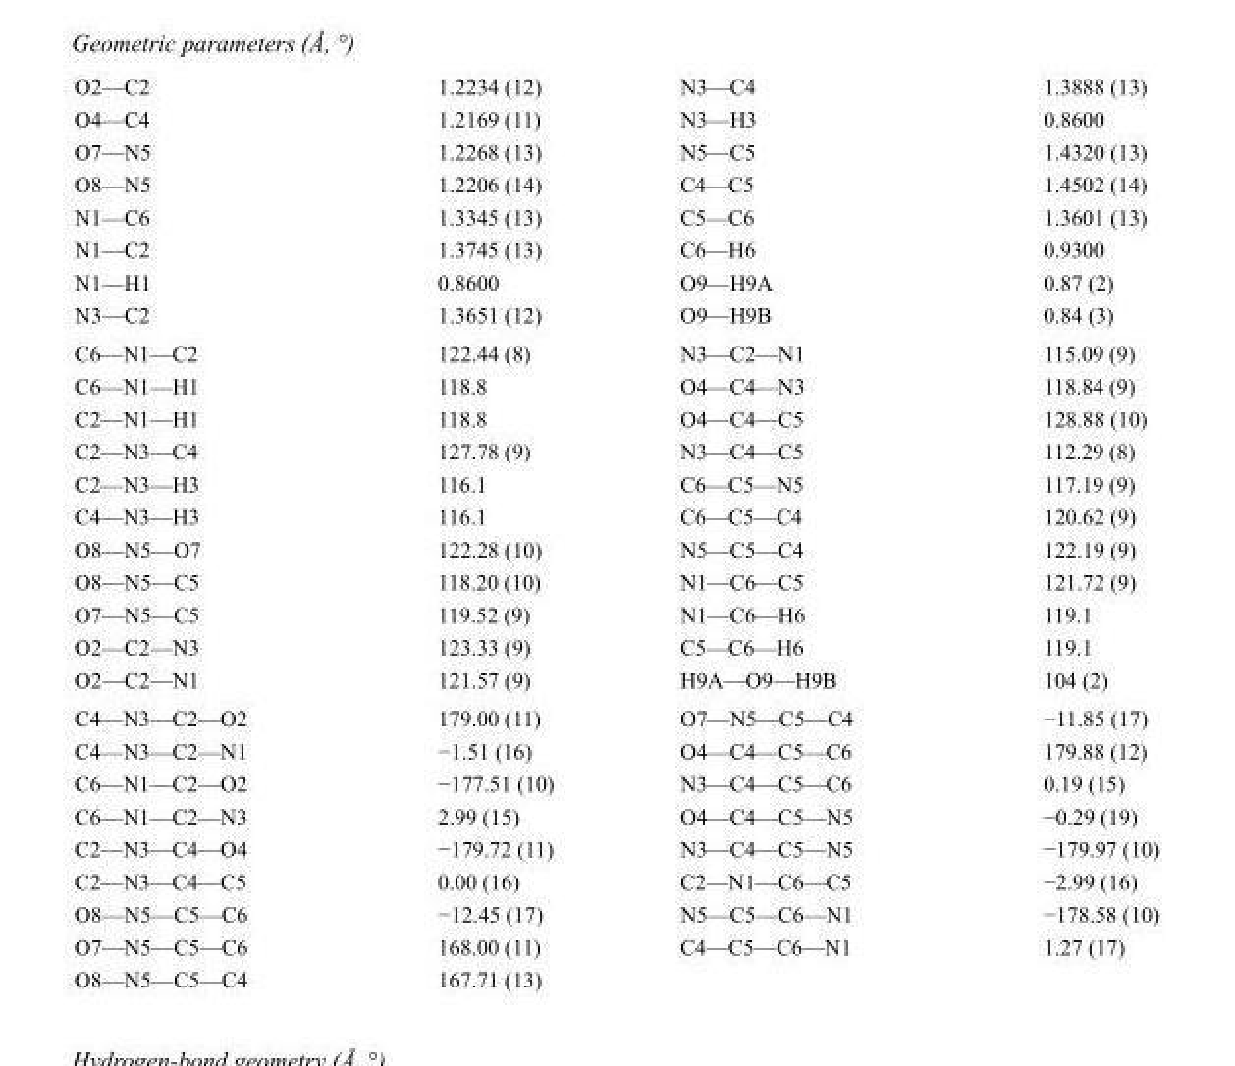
<table><tbody><tr><td>O2—C2</td><td>1.2234 (12)</td><td>N3—C4</td><td>1.3888 (13)</td></tr><tr><td>O4—C4</td><td>1.2169 (11)</td><td>N3—H3</td><td>0.8600</td></tr><tr><td>O7—N5</td><td>1.2268 (13)</td><td>N5—C5</td><td>1.4320 (13)</td></tr><tr><td>O8—N5</td><td>1.2206 (14)</td><td>C4—C5</td><td>1.4502 (14)</td></tr><tr><td>N1—C6</td><td>1.3345 (13)</td><td>C5—C6</td><td>1.3601 (13)</td></tr><tr><td>N1—C2</td><td>1.3745 (13)</td><td>C6—H6</td><td>0.9300</td></tr><tr><td>N1—H1</td><td>0.8600</td><td>O9—H9A</td><td>0.87 (2)</td></tr><tr><td>N3—C2</td><td>1.3651 (12)</td><td>O9—H9B</td><td>0.84 (3)</td></tr><tr><td>C6—N1—C2</td><td>122.44 (8)</td><td>N3—C2—N1</td><td>115.09 (9)</td></tr><tr><td>C6—N1—H1</td><td>118.8</td><td>O4—C4—N3</td><td>118.84 (9)</td></tr><tr><td>C2—N1—H1</td><td>118.8</td><td>O4—C4—C5</td><td>128.88 (10)</td></tr><tr><td>C2—N3—C4</td><td>127.78 (9)</td><td>N3—C4—C5</td><td>112.29 (8)</td></tr><tr><td>C2—N3—H3</td><td>116.1</td><td>C6—C5—N5</td><td>117.19 (9)</td></tr><tr><td>C4—N3—H3</td><td>116.1</td><td>C6—C5—C4</td><td>120.62 (9)</td></tr><tr><td>O8—N5—O7</td><td>122.28 (10)</td><td>N5—C5—C4</td><td>122.19 (9)</td></tr><tr><td>O8—N5—C5</td><td>118.20 (10)</td><td>N1—C6—C5</td><td>121.72 (9)</td></tr><tr><td>O7—N5—C5</td><td>119.52 (9)</td><td>N1—C6—H6</td><td>119.1</td></tr><tr><td>O2—C2—N3</td><td>123.33 (9)</td><td>C5—C6—H6</td><td>119.1</td></tr><tr><td>O2—C2—N1</td><td>121.57 (9)</td><td>H9A—O9—H9B</td><td>104 (2)</td></tr><tr><td>C4—N3—C2—O2</td><td>179.00 (11)</td><td>O7—N5—C5—C4</td><td>−11.85 (17)</td></tr><tr><td>C4—N3—C2—N1</td><td>−1.51 (16)</td><td>O4—C4—C5—C6</td><td>179.88 (12)</td></tr><tr><td>C6—N1—C2—O2</td><td>−177.51 (10)</td><td>N3—C4—C5—C6</td><td>0.19 (15)</td></tr><tr><td>C6—N1—C2—N3</td><td>2.99 (15)</td><td>O4—C4—C5—N5</td><td>−0.29 (19)</td></tr><tr><td>C2—N3—C4—O4</td><td>−179.72 (11)</td><td>N3—C4—C5—N5</td><td>−179.97 (10)</td></tr><tr><td>C2—N3—C4—C5</td><td>0.00 (16)</td><td>C2—N1—C6—C5</td><td>−2.99 (16)</td></tr><tr><td>O8—N5—C5—C6</td><td>−12.45 (17)</td><td>N5—C5—C6—N1</td><td>−178.58 (10)</td></tr><tr><td>O7—N5—C5—C6</td><td>168.00 (11)</td><td>C4—C5—C6—N1</td><td>1.27 (17)</td></tr><tr><td>O8—N5—C5—C4</td><td>167.71 (13)</td><td></td><td></td></tr></tbody></table>